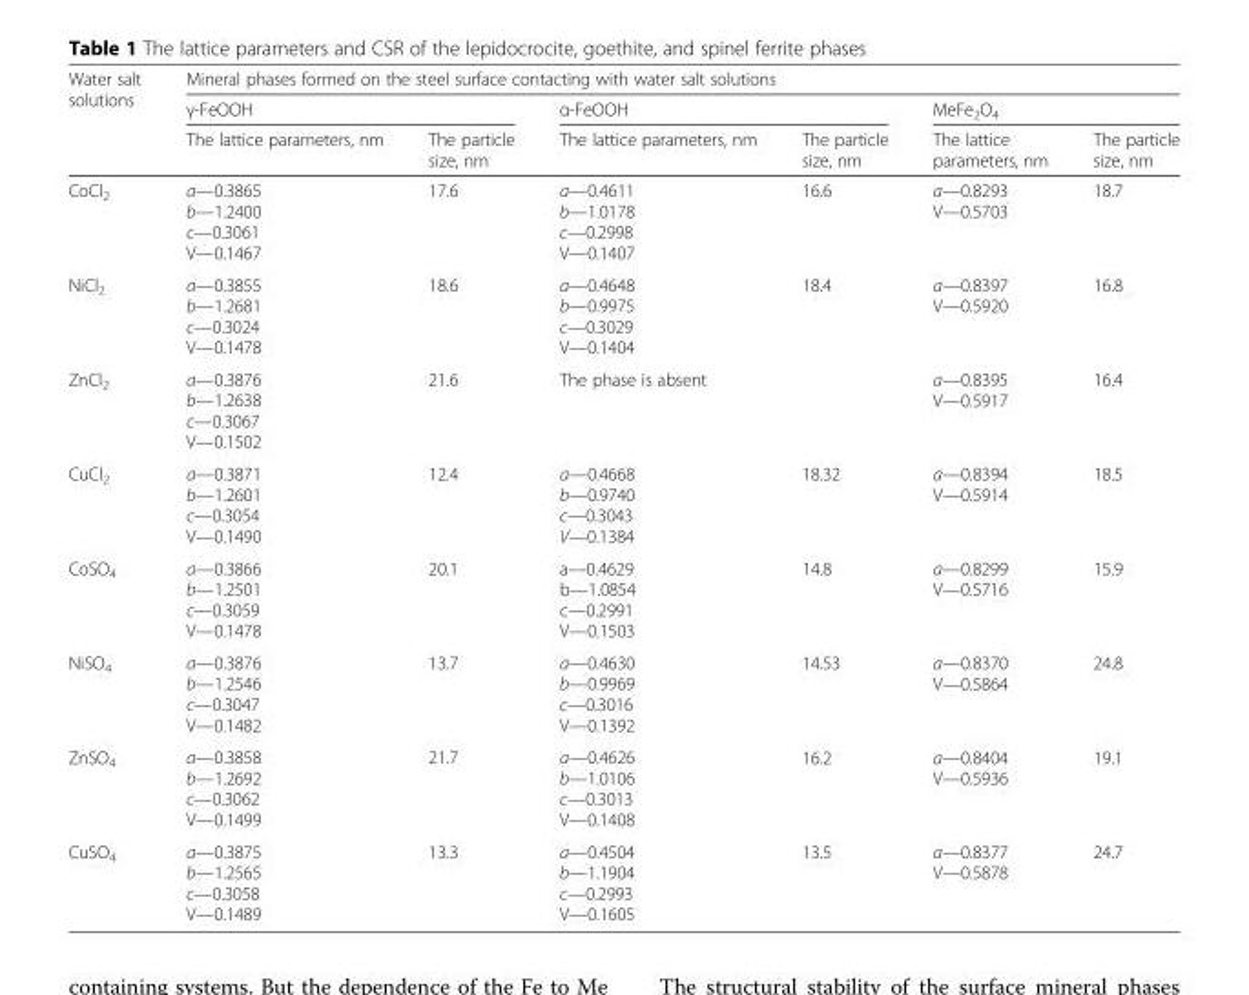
<table><thead><tr><td rowspan="3">Water salt solutions</td><td colspan="6">Mineral phases formed on the steel surface contacting with water salt solutions</td></tr><tr><td colspan="2">γ-FeOOH</td><td colspan="2">α-FeOOH</td><td colspan="2">MeFe<sub>2</sub>O<sub>4</sub></td></tr><tr><td>The lattice parameters, nm</td><td>The particle size, nm</td><td>The lattice parameters, nm</td><td>The particle size, nm</td><td>The lattice parameters, nm</td><td>The particle size, nm</td></tr></thead><tbody><tr><td>CoCl<sub>2</sub></td><td>a—0.3865 b—1.2400 c—0.3061 V—0.1467</td><td>17.6</td><td>a—0.4611 b—1.0178 c—0.2998 V—0.1407</td><td>16.6</td><td>a—0.8293 V—0.5703</td><td>18.7</td></tr><tr><td>NiCl<sub>2</sub></td><td>a—0.3855 b—1.2681 c—0.3024 V—0.1478</td><td>18.6</td><td>a—0.4648 b—0.9975 c—0.3029 V—0.1404</td><td>18.4</td><td>a—0.8397 V—0.5920</td><td>16.8</td></tr><tr><td>ZnCl<sub>2</sub></td><td>a—0.3876 b—1.2638 c—0.3067 V—0.1502</td><td>21.6</td><td colspan="2">The phase is absent</td><td>a—0.8395 V—0.5917</td><td>16.4</td></tr><tr><td>CuCl<sub>2</sub></td><td>a—0.3871 b—1.2601 c—0.3054 V—0.1490</td><td>12.4</td><td>a—0.4668 b—0.9740 c—0.3043 V—0.1384</td><td>18.32</td><td>a—0.8394 V—0.5914</td><td>18.5</td></tr><tr><td>CoSO<sub>4</sub></td><td>a—0.3866 b—1.2501 c—0.3059 V—0.1478</td><td>20.1</td><td>a—0.4629 b—1.0854 c—0.2991 V—0.1503</td><td>14.8</td><td>a—0.8299 V—0.5716</td><td>15.9</td></tr><tr><td>NiSO<sub>4</sub></td><td>a—0.3876 b—1.2546 c—0.3047 V—0.1482</td><td>13.7</td><td>a—0.4630 b—0.9969 c—0.3016 V—0.1392</td><td>14.53</td><td>a—0.8370 V—0.5864</td><td>24.8</td></tr><tr><td>ZnSO<sub>4</sub></td><td>a—0.3858 b—1.2692 c—0.3062 V—0.1499</td><td>21.7</td><td>a—0.4626 b—1.0106 c—0.3013 V—0.1408</td><td>16.2</td><td>a—0.8404 V—0.5936</td><td>19.1</td></tr><tr><td>CuSO<sub>4</sub></td><td>a—0.3875 b—1.2565 c—0.3058 V—0.1489</td><td>13.3</td><td>a—0.4504 b—1.1904 c—0.2993 V—0.1605</td><td>13.5</td><td>a—0.8377 V—0.5878</td><td>24.7</td></tr></tbody></table>